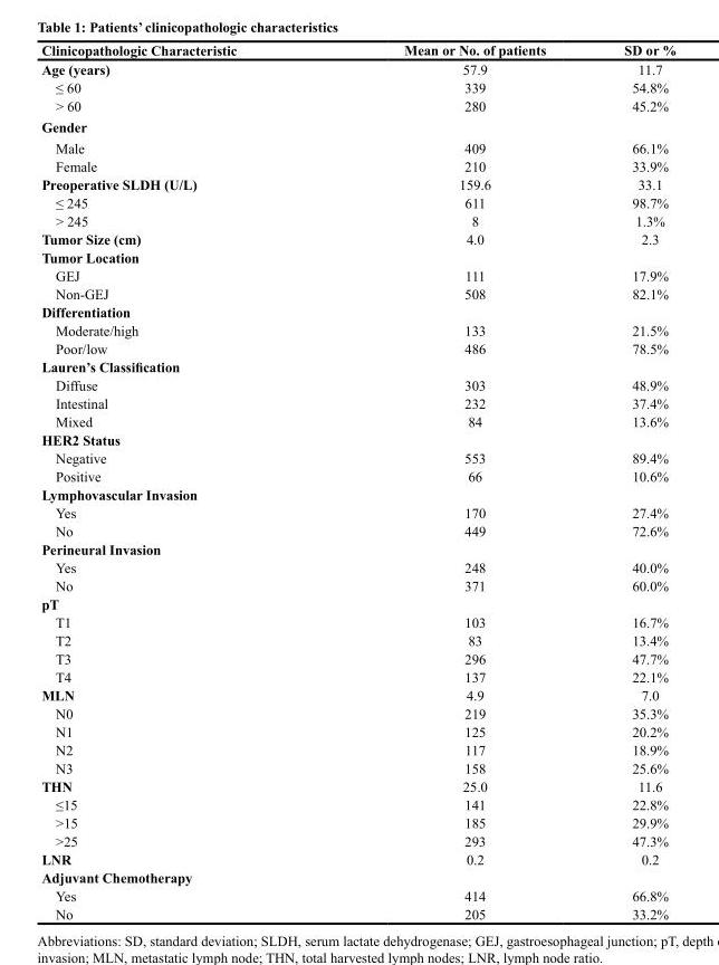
<table><thead><tr><td>Clinicopathologic Characteristic</td><td>Mean or No. of patients</td><td>SD or %</td></tr></thead><tbody><tr><td>Age (years)</td><td>57.9</td><td>11.7</td></tr><tr><td>≤ 60</td><td>339</td><td>54.8%</td></tr><tr><td>&gt; 60</td><td>280</td><td>45.2%</td></tr><tr><td colspan="3">Gender</td></tr><tr><td>Male</td><td>409</td><td>66.1%</td></tr><tr><td>Female</td><td>210</td><td>33.9%</td></tr><tr><td>Preoperative SLDH (U/L)</td><td>159.6</td><td>33.1</td></tr><tr><td>≤ 245</td><td>611</td><td>98.7%</td></tr><tr><td>&gt; 245</td><td>8</td><td>1.3%</td></tr><tr><td>Tumor Size (cm)</td><td>4.0</td><td>2.3</td></tr><tr><td colspan="3">Tumor Location</td></tr><tr><td>GEJ</td><td>111</td><td>17.9%</td></tr><tr><td>Non-GEJ</td><td>508</td><td>82.1%</td></tr><tr><td colspan="3">Differentiation</td></tr><tr><td>Moderate/high</td><td>133</td><td>21.5%</td></tr><tr><td>Poor/low</td><td>486</td><td>78.5%</td></tr><tr><td colspan="3">Lauren’s Classification</td></tr><tr><td>Diffuse</td><td>303</td><td>48.9%</td></tr><tr><td>Intestinal</td><td>232</td><td>37.4%</td></tr><tr><td>Mixed</td><td>84</td><td>13.6%</td></tr><tr><td colspan="3">HER2 Status</td></tr><tr><td>Negative</td><td>553</td><td>89.4%</td></tr><tr><td>Positive</td><td>66</td><td>10.6%</td></tr><tr><td colspan="3">Lymphovascular Invasion</td></tr><tr><td>Yes</td><td>170</td><td>27.4%</td></tr><tr><td>No</td><td>449</td><td>72.6%</td></tr><tr><td colspan="3">Perineural Invasion</td></tr><tr><td>Yes</td><td>248</td><td>40.0%</td></tr><tr><td>No</td><td>371</td><td>60.0%</td></tr><tr><td colspan="3">pT</td></tr><tr><td>T1</td><td>103</td><td>16.7%</td></tr><tr><td>T2</td><td>83</td><td>13.4%</td></tr><tr><td>T3</td><td>296</td><td>47.7%</td></tr><tr><td>T4</td><td>137</td><td>22.1%</td></tr><tr><td>MLN</td><td>4.9</td><td>7.0</td></tr><tr><td>N0</td><td>219</td><td>35.3%</td></tr><tr><td>N1</td><td>125</td><td>20.2%</td></tr><tr><td>N2</td><td>117</td><td>18.9%</td></tr><tr><td>N3</td><td>158</td><td>25.6%</td></tr><tr><td>THN</td><td>25.0</td><td>11.6</td></tr><tr><td>≤15</td><td>141</td><td>22.8%</td></tr><tr><td>&gt;15</td><td>185</td><td>29.9%</td></tr><tr><td>&gt;25</td><td>293</td><td>47.3%</td></tr><tr><td>LNR</td><td>0.2</td><td>0.2</td></tr><tr><td colspan="3">Adjuvant Chemotherapy</td></tr><tr><td>Yes</td><td>414</td><td>66.8%</td></tr><tr><td>No</td><td>205</td><td>33.2%</td></tr></tbody></table>